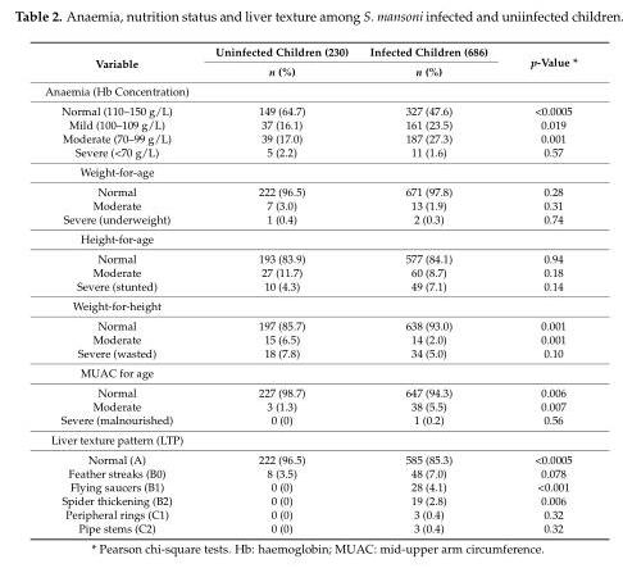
<table><thead><tr><td rowspan="2">Variable</td><td rowspan="2">Uninfected Children (230) n (%)</td><td rowspan="2">Infected Children (686) n (%)</td><td rowspan="2">p-Value *</td></tr><tr></tr></thead><tbody><tr><td colspan="4">Anaemia (Hb Concentration)</td></tr><tr><td>Normal (110–150 g/L)</td><td>149 (64.7)</td><td>327 (47.6)</td><td>&lt;0.0005</td></tr><tr><td>Mild (100–109 g/L)</td><td>37 (16.1)</td><td>161 (23.5)</td><td>0.019</td></tr><tr><td>Moderate (70–99 g/L)</td><td>39 (17.0)</td><td>187 (27.3)</td><td>0.001</td></tr><tr><td>Severe (&lt;70 g/L)</td><td>5 (2.2)</td><td>11 (1.6)</td><td>0.57</td></tr><tr><td colspan="4">Weight-for-age</td></tr><tr><td>Normal</td><td>222 (96.5)</td><td>671 (97.8)</td><td>0.28</td></tr><tr><td>Moderate</td><td>7 (3.0)</td><td>13 (1.9)</td><td>0.31</td></tr><tr><td>Severe (underweight)</td><td>1 (0.4)</td><td>2 (0.3)</td><td>0.74</td></tr><tr><td colspan="4">Height-for-age</td></tr><tr><td>Normal</td><td>193 (83.9)</td><td>577 (84.1)</td><td>0.94</td></tr><tr><td>Moderate</td><td>27 (11.7)</td><td>60 (8.7)</td><td>0.18</td></tr><tr><td>Severe (stunted)</td><td>10 (4.3)</td><td>49 (7.1)</td><td>0.14</td></tr><tr><td colspan="4">Weight-for-height</td></tr><tr><td>Normal</td><td>197 (85.7)</td><td>638 (93.0)</td><td>0.001</td></tr><tr><td>Moderate</td><td>15 (6.5)</td><td>14 (2.0)</td><td>0.001</td></tr><tr><td>Severe (wasted)</td><td>18 (7.8)</td><td>34 (5.0)</td><td>0.10</td></tr><tr><td colspan="4">MUAC for age</td></tr><tr><td>Normal</td><td>227 (98.7)</td><td>647 (94.3)</td><td>0.006</td></tr><tr><td>Moderate</td><td>3 (1.3)</td><td>38 (5.5)</td><td>0.007</td></tr><tr><td>Severe (malnourished)</td><td>0 (0)</td><td>1 (0.2)</td><td>0.56</td></tr><tr><td colspan="4">Liver texture pattern (LTP)</td></tr><tr><td>Normal (A)</td><td>222 (96.5)</td><td>585 (85.3)</td><td>&lt;0.0005</td></tr><tr><td>Feather streaks (B0)</td><td>8 (3.5)</td><td>48 (7.0)</td><td>0.078</td></tr><tr><td>Flying saucers (B1)</td><td>0 (0)</td><td>28 (4.1)</td><td>&lt;0.001</td></tr><tr><td>Spider thickening (B2)</td><td>0 (0)</td><td>19 (2.8)</td><td>0.006</td></tr><tr><td>Peripheral rings (C1)</td><td>0 (0)</td><td>3 (0.4)</td><td>0.32</td></tr><tr><td>Pipe stems (C2)</td><td>0 (0)</td><td>3 (0.4)</td><td>0.32</td></tr></tbody></table>